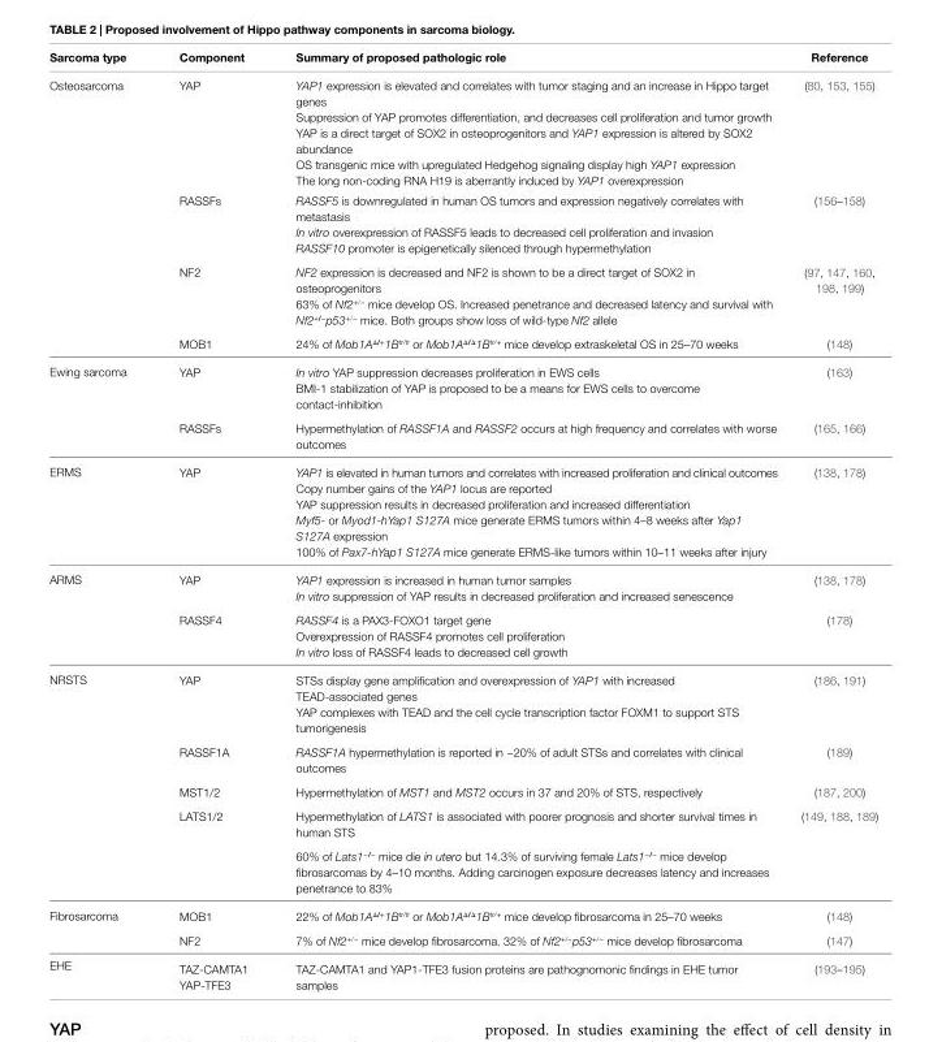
<table><thead><tr><td>Sarcoma type</td><td>Component</td><td>Summary of proposed pathologic role</td><td>Reference</td></tr></thead><tbody><tr><td rowspan="4">Osteosarcoma</td><td>YAP</td><td>YAP1 expression is elevated and correlates with tumor staging and an increase in Hippo target genes Suppression of YAP promotes differentiation, and decreases cell proliferation and tumor growth YAP is a direct target of SOX2 in osteoprogenitors and YAP1 expression is altered by SOX2 abundance OS transgenic mice with upregulated Hedgehog signaling display high YAP1 expression The long non-coding RNA H19 is aberrantly induced by YAP1 overexpression</td><td>(80, 153, 155)</td></tr><tr><td>RASSFs</td><td>RASSF5 is downregulated in human OS tumors and expression negatively correlates with metastasis In vitro overexpression of RASSF5 leads to decreased cell proliferation and invasion RASSF10 promoter is epigenetically silenced through hypermethylation</td><td>(156–158)</td></tr><tr><td>NF2</td><td>NF2 expression is decreased and NF2 is shown to be a direct target of SOX2 in osteoprogenitors 63% of Nf2<sup>+/−</sup> mice develop OS. Increased penetrance and decreased latency and survival with Nf2<sup>+/−</sup>p53<sup>+/−</sup> mice. Both groups show loss of wild-type Nf2 allele</td><td>(97, 147, 160, 198, 199)</td></tr><tr><td>MOB1</td><td>24% of Mob1A<sup>Δ/+</sup>1B<sup>tr/tr</sup> or Mob1A<sup>Δ/Δ</sup>1B<sup>tr/+</sup> mice develop extraskeletal OS in 25–70 weeks</td><td>(148)</td></tr><tr><td rowspan="2">Ewing sarcoma</td><td>YAP</td><td>In vitro YAP suppression decreases proliferation in EWS cells BMI-1 stabilization of YAP is proposed to be a means for EWS cells to overcome contact-inhibition</td><td>(163)</td></tr><tr><td>RASSFs</td><td>Hypermethylation of RASSF1A and RASSF2 occurs at high frequency and correlates with worse outcomes</td><td>(165, 166)</td></tr><tr><td>ERMS</td><td>YAP</td><td>YAP1 is elevated in human tumors and correlates with increased proliferation and clinical outcomes Copy number gains of the YAP1 locus are reported YAP suppression results in decreased proliferation and increased differentiation Myf5- or Myod1-hYap1 S127A mice generate ERMS tumors within 4–8 weeks after Yap1 S127A expression 100% of Pax7-hYap1 S127A mice generate ERMS-like tumors within 10–11 weeks after injury</td><td>(138, 178)</td></tr><tr><td rowspan="2">ARMS</td><td>YAP</td><td>YAP1 expression is increased in human tumor samples In vitro suppression of YAP results in decreased proliferation and increased senescence</td><td>(138, 178)</td></tr><tr><td>RASSF4</td><td>RASSF4 is a PAX3-FOXO1 target gene Overexpression of RASSF4 promotes cell proliferation In vitro loss of RASSF4 leads to decreased cell growth</td><td>(178)</td></tr><tr><td rowspan="5">NRSTS</td><td>YAP</td><td>STSs display gene amplification and overexpression of YAP1 with increased TEAD-associated genes YAP complexes with TEAD and the cell cycle transcription factor FOXM1 to support STS tumorigenesis</td><td>(186, 191)</td></tr><tr><td>RASSF1A</td><td>RASSF1A hypermethylation is reported in ~20% of adult STSs and correlates with clinical outcomes</td><td>(189)</td></tr><tr><td>MST1/2</td><td>Hypermethylation of MST1 and MST2 occurs in 37 and 20% of STS, respectively</td><td>(187, 200)</td></tr><tr><td>LATS1/2</td><td>Hypermethylation of LATS1 is associated with poorer prognosis and shorter survival times in human STS</td><td>(149, 188, 189)</td></tr><tr><td></td><td>60% of Lats1<sup>−/−</sup> mice die in utero but 14.3% of surviving female Lats1<sup>−/−</sup> mice develop fibrosarcomas by 4–10 months. Adding carcinogen exposure decreases latency and increases penetrance to 83%</td><td></td></tr><tr><td rowspan="2">Fibrosarcoma</td><td>MOB1</td><td>22% of Mob1A<sup>Δ/+</sup>1B<sup>tr/tr</sup> or Mob1A<sup>Δ/Δ</sup>1B<sup>tr/+</sup> mice develop fibrosarcoma in 25–70 weeks</td><td>(148)</td></tr><tr><td>NF2</td><td>7% of Nf2<sup>+/−</sup> mice develop fibrosarcoma. 32% of Nf2<sup>+/−</sup>p53<sup>+/−</sup> mice develop fibrosarcoma</td><td>(147)</td></tr><tr><td>EHE</td><td>TAZ-CAMTA1 YAP-TFE3</td><td>TAZ-CAMTA1 and YAP1-TFE3 fusion proteins are pathognomonic findings in EHE tumor samples</td><td>(193–195)</td></tr></tbody></table>